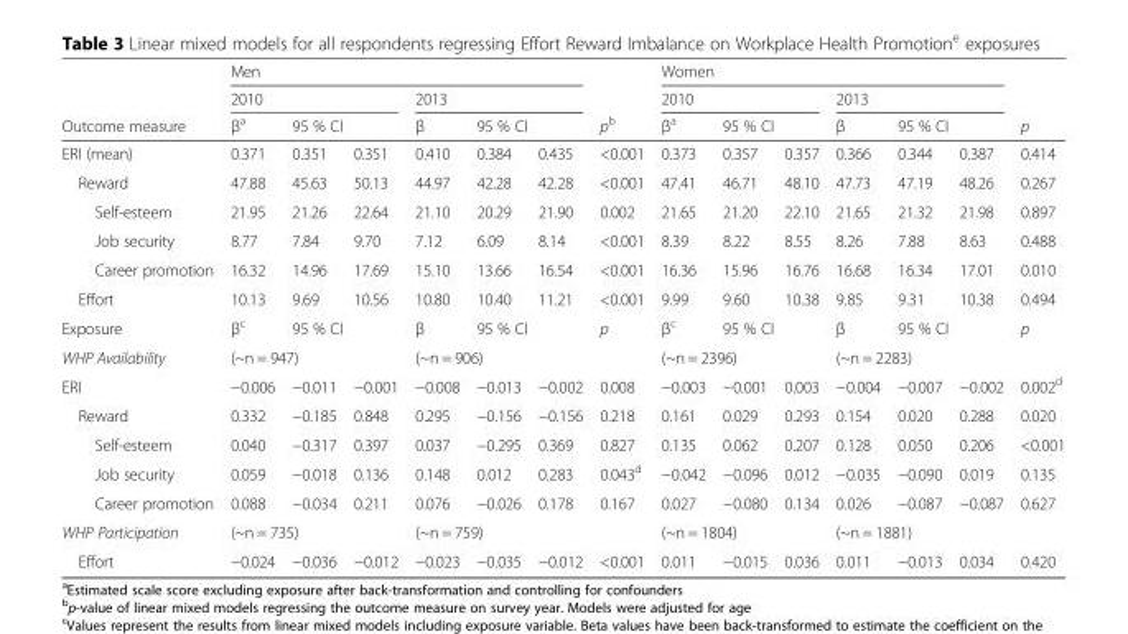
<table><thead><tr><td rowspan="4">Outcome measure ERI (mean)</td><td colspan="6">Men</td><td rowspan="4">p<sup>b</sup> &lt;0.001</td><td colspan="6">Women</td><td rowspan="4">p 0.414</td></tr><tr><td colspan="3">2010</td><td colspan="3">2013</td><td colspan="3">2010</td><td colspan="3">2013</td></tr><tr><td rowspan="2">β<sup>a</sup> 0.371</td><td colspan="2">95 % CI</td><td rowspan="2">β 0.410</td><td colspan="2">95 % CI</td><td rowspan="2">β<sup>a</sup> 0.373</td><td colspan="2">95 % CI</td><td rowspan="2">β 0.366</td><td colspan="2">95 % CI</td></tr><tr><td>0.351</td><td>0.351</td><td>0.384</td><td>0.435</td><td>0.357</td><td>0.357</td><td>0.344</td><td>0.387</td></tr></thead><tbody><tr><td>Reward</td><td>47.88</td><td>45.63</td><td>50.13</td><td>44.97</td><td>42.28</td><td>42.28</td><td>&lt;0.001</td><td>47.41</td><td>46.71</td><td>48.10</td><td>47.73</td><td>47.19</td><td>48.26</td><td>0.267</td></tr><tr><td>Self-esteem</td><td>21.95</td><td>21.26</td><td>22.64</td><td>21.10</td><td>20.29</td><td>21.90</td><td>0.002</td><td>21.65</td><td>21.20</td><td>22.10</td><td>21.65</td><td>21.32</td><td>21.98</td><td>0.897</td></tr><tr><td>Job security</td><td>8.77</td><td>7.84</td><td>9.70</td><td>7.12</td><td>6.09</td><td>8.14</td><td>&lt;0.001</td><td>8.39</td><td>8.22</td><td>8.55</td><td>8.26</td><td>7.88</td><td>8.63</td><td>0.488</td></tr><tr><td>Career promotion</td><td>16.32</td><td>14.96</td><td>17.69</td><td>15.10</td><td>13.66</td><td>16.54</td><td>&lt;0.001</td><td>16.36</td><td>15.96</td><td>16.76</td><td>16.68</td><td>16.34</td><td>17.01</td><td>0.010</td></tr><tr><td>Effort</td><td>10.13</td><td>9.69</td><td>10.56</td><td>10.80</td><td>10.40</td><td>11.21</td><td>&lt;0.001</td><td>9.99</td><td>9.60</td><td>10.38</td><td>9.85</td><td>9.31</td><td>10.38</td><td>0.494</td></tr><tr><td>Exposure</td><td>β<sup>c</sup></td><td colspan="2">95 % CI</td><td>β</td><td colspan="2">95 % CI</td><td>p</td><td>β<sup>c</sup></td><td colspan="2">95 % CI</td><td>β</td><td colspan="2">95 % CI</td><td>p</td></tr><tr><td>WHP Availability</td><td colspan="3">(~n = 947)</td><td colspan="3">(~n = 906)</td><td></td><td colspan="3">(~n = 2396)</td><td colspan="3">(~n = 2283)</td><td></td></tr><tr><td>ERI</td><td>−0.006</td><td>−0.011</td><td>−0.001</td><td>−0.008</td><td>−0.013</td><td>−0.002</td><td>0.008</td><td>−0.003</td><td>−0.001</td><td>0.003</td><td>−0.004</td><td>−0.007</td><td>−0.002</td><td>0.002<sup>d</sup></td></tr><tr><td>Reward</td><td>0.332</td><td>−0.185</td><td>0.848</td><td>0.295</td><td>−0.156</td><td>−0.156</td><td>0.218</td><td>0.161</td><td>0.029</td><td>0.293</td><td>0.154</td><td>0.020</td><td>0.288</td><td>0.020</td></tr><tr><td>Self-esteem</td><td>0.040</td><td>−0.317</td><td>0.397</td><td>0.037</td><td>−0.295</td><td>0.369</td><td>0.827</td><td>0.135</td><td>0.062</td><td>0.207</td><td>0.128</td><td>0.050</td><td>0.206</td><td>&lt;0.001</td></tr><tr><td>Job security</td><td>0.059</td><td>−0.018</td><td>0.136</td><td>0.148</td><td>0.012</td><td>0.283</td><td>0.043<sup>d</sup></td><td>−0.042</td><td>−0.096</td><td>0.012</td><td>−0.035</td><td>−0.090</td><td>0.019</td><td>0.135</td></tr><tr><td>Career promotion</td><td>0.088</td><td>−0.034</td><td>0.211</td><td>0.076</td><td>−0.026</td><td>0.178</td><td>0.167</td><td>0.027</td><td>−0.080</td><td>0.134</td><td>0.026</td><td>−0.087</td><td>−0.087</td><td>0.627</td></tr><tr><td>WHP Participation</td><td colspan="3">(~n = 735)</td><td colspan="3">(~n = 759)</td><td></td><td colspan="3">(~n = 1804)</td><td colspan="3">(~n = 1881)</td><td></td></tr><tr><td>Effort</td><td>−0.024</td><td>−0.036</td><td>−0.012</td><td>−0.023</td><td>−0.035</td><td>−0.012</td><td>&lt;0.001</td><td>0.011</td><td>−0.015</td><td>0.036</td><td>0.011</td><td>−0.013</td><td>0.034</td><td>0.420</td></tr></tbody></table>